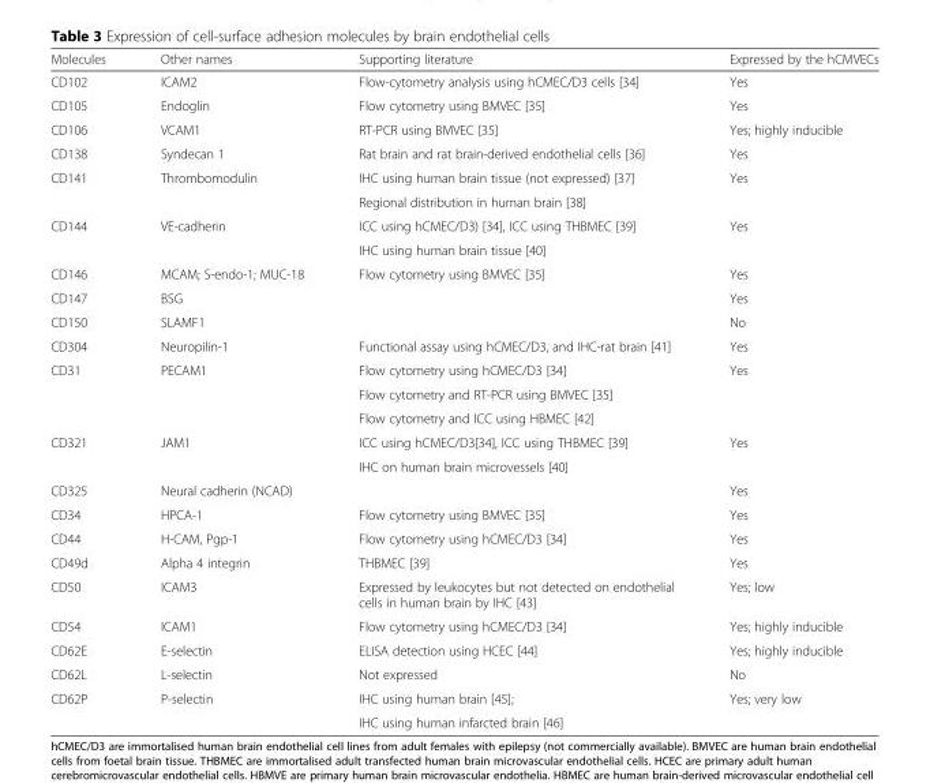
<table><thead><tr><td>Molecules</td><td>Other names</td><td>Supporting literature</td><td>Expressed by the hCMVECs</td></tr></thead><tbody><tr><td>CD102</td><td>ICAM2</td><td>Flow-cytometry analysis using hCMEC/D3 cells [34]</td><td>Yes</td></tr><tr><td>CD105</td><td>Endoglin</td><td>Flow cytometry using BMVEC [35]</td><td>Yes</td></tr><tr><td>CD106</td><td>VCAM1</td><td>RT-PCR using BMVEC [35]</td><td>Yes; highly inducible</td></tr><tr><td>CD138</td><td>Syndecan 1</td><td>Rat brain and rat brain-derived endothelial cells [36]</td><td>Yes</td></tr><tr><td rowspan="2">CD141</td><td rowspan="2">Thrombomodulin</td><td>IHC using human brain tissue (not expressed) [37]</td><td rowspan="2">Yes</td></tr><tr><td>Regional distribution in human brain [38]</td></tr><tr><td rowspan="2">CD144</td><td rowspan="2">VE-cadherin</td><td>ICC using hCMEC/D3) [34], ICC using THBMEC [39]</td><td rowspan="2">Yes</td></tr><tr><td>IHC using human brain tissue [40]</td></tr><tr><td>CD146</td><td>MCAM; S-endo-1; MUC-18</td><td>Flow cytometry using BMVEC [35]</td><td>Yes</td></tr><tr><td>CD147</td><td>BSG</td><td></td><td>Yes</td></tr><tr><td>CD150</td><td>SLAMF1</td><td></td><td>No</td></tr><tr><td>CD304</td><td>Neuropilin-1</td><td>Functional assay using hCMEC/D3, and IHC-rat brain [41]</td><td>Yes</td></tr><tr><td rowspan="3">CD31</td><td rowspan="3">PECAM1</td><td>Flow cytometry using hCMEC/D3 [34]</td><td rowspan="3">Yes</td></tr><tr><td>Flow cytometry and RT-PCR using BMVEC [35]</td></tr><tr><td>Flow cytometry and ICC using HBMEC [42]</td></tr><tr><td rowspan="2">CD321</td><td rowspan="2">JAM1</td><td>ICC using hCMEC/D3[34], ICC using THBMEC [39]</td><td rowspan="2">Yes</td></tr><tr><td>IHC on human brain microvessels [40]</td></tr><tr><td>CD325</td><td>Neural cadherin (NCAD)</td><td></td><td>Yes</td></tr><tr><td>CD34</td><td>HPCA-1</td><td>Flow cytometry using BMVEC [35]</td><td>Yes</td></tr><tr><td>CD44</td><td>H-CAM, Pgp-1</td><td>Flow cytometry using hCMEC/D3 [34]</td><td>Yes</td></tr><tr><td>CD49d</td><td>Alpha 4 integrin</td><td>THBMEC [39]</td><td>Yes</td></tr><tr><td>CD50</td><td>ICAM3</td><td>Expressed by leukocytes but not detected on endothelial cells in human brain by IHC [43]</td><td>Yes; low</td></tr><tr><td>CD54</td><td>ICAM1</td><td>Flow cytometry using hCMEC/D3 [34]</td><td>Yes; highly inducible</td></tr><tr><td>CD62E</td><td>E-selectin</td><td>ELISA detection using HCEC [44]</td><td>Yes; highly inducible</td></tr><tr><td>CD62L</td><td>L-selectin</td><td>Not expressed</td><td>No</td></tr><tr><td rowspan="2">CD62P</td><td rowspan="2">P-selectin</td><td>IHC using human brain [45];</td><td rowspan="2">Yes; very low</td></tr><tr><td>IHC using human infarcted brain [46]</td></tr></tbody></table>